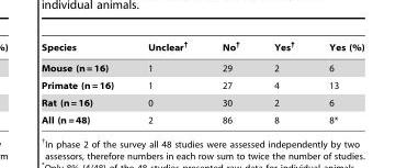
<table><thead><tr><td>Species</td><td>Unclear†</td><td>No†</td><td>Yes†</td><td>Yes (%)</td></tr></thead><tbody><tr><td>Mouse (n = 16)</td><td>1</td><td>29</td><td>2</td><td>6</td></tr><tr><td>Primate (n = 16)</td><td>1</td><td>27</td><td>4</td><td>13</td></tr><tr><td>Rat (n = 16)</td><td>0</td><td>30</td><td>2</td><td>6</td></tr><tr><td>All (n = 48)</td><td>2</td><td>86</td><td>8</td><td>8*</td></tr></tbody></table>